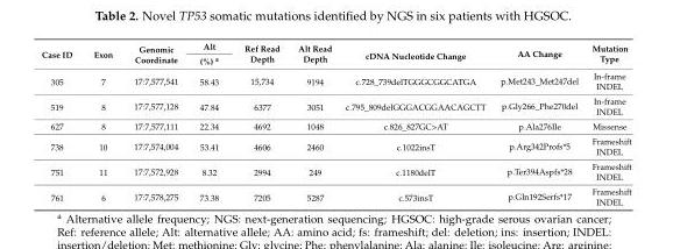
<table><thead><tr><td rowspan="2">Case ID</td><td rowspan="2">Exon</td><td rowspan="2">Genomic Coordinate</td><td rowspan="2">Alt (%) <sup>a</sup></td><td rowspan="2">Ref Read Depth</td><td rowspan="2">Alt Read Depth</td><td rowspan="2">cDNA Nucleotide Change</td><td rowspan="2">AA Change</td><td rowspan="2">Mutation Type</td></tr><tr></tr></thead><tbody><tr><td rowspan="2">305</td><td rowspan="2">7</td><td rowspan="2">17:7,577,541</td><td rowspan="2">58.43</td><td rowspan="2">15,734</td><td rowspan="2">9194</td><td rowspan="2">c.728_739delTGGGCGGCATGA</td><td rowspan="2">p.Met243_Met247del</td><td>In-frame</td></tr><tr><td>INDEL</td></tr><tr><td rowspan="2">519</td><td rowspan="2">8</td><td rowspan="2">17:7,577,128</td><td rowspan="2">47.84</td><td rowspan="2">6377</td><td rowspan="2">3051</td><td rowspan="2">c.795_809delGGGACGGAACAGCTT</td><td rowspan="2">p.Gly266_Phe270del</td><td>In-frame</td></tr><tr><td>INDEL</td></tr><tr><td>627</td><td>8</td><td>17:7,577,111</td><td>22.34</td><td>4692</td><td>1048</td><td>c.826_827GC&gt;AT</td><td>p.Ala276Ile</td><td>Missense</td></tr><tr><td rowspan="2">738</td><td rowspan="2">10</td><td rowspan="2">17:7,574,004</td><td rowspan="2">53.41</td><td rowspan="2">4606</td><td rowspan="2">2460</td><td rowspan="2">c.1022insT</td><td rowspan="2">p.Arg342Profs*5</td><td>Frameshift</td></tr><tr><td>INDEL</td></tr><tr><td rowspan="2">751</td><td rowspan="2">11</td><td rowspan="2">17:7,572,928</td><td rowspan="2">8.32</td><td rowspan="2">2994</td><td rowspan="2">249</td><td rowspan="2">c.1180delT</td><td rowspan="2">p.Ter394Aspfs*28</td><td>Frameshift</td></tr><tr><td>INDEL</td></tr><tr><td rowspan="2">761</td><td rowspan="2">6</td><td rowspan="2">17:7,578,275</td><td rowspan="2">73.38</td><td rowspan="2">7205</td><td rowspan="2">5287</td><td rowspan="2">c.573insT</td><td rowspan="2">p.Gln192Serfs*17</td><td>Frameshift</td></tr><tr><td>INDEL</td></tr></tbody></table>